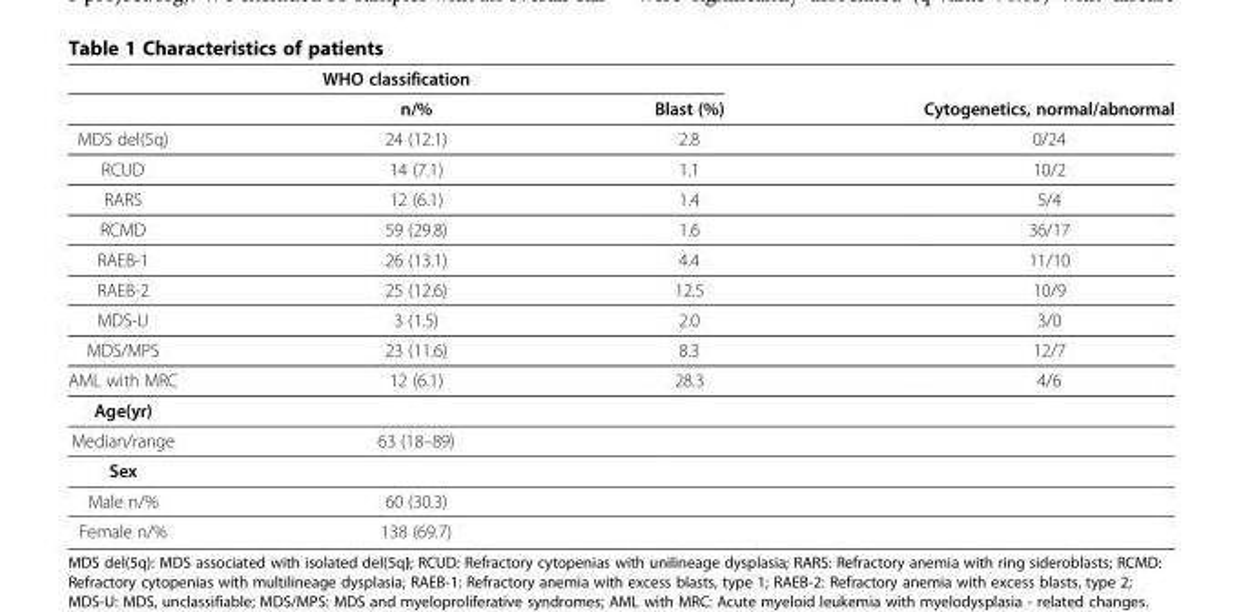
<table><thead><tr><td colspan="3">WHO classification</td><td rowspan="2">Cytogenetics, normal/abnormal</td></tr><tr><td></td><td>n/%</td><td>Blast (%)</td></tr></thead><tbody><tr><td>MDS del(5q)</td><td>24 (12.1)</td><td>2.8</td><td>0/24</td></tr><tr><td>RCUD</td><td>14 (7.1)</td><td>1.1</td><td>10/2</td></tr><tr><td>RARS</td><td>12 (6.1)</td><td>1.4</td><td>5/4</td></tr><tr><td>RCMD</td><td>59 (29.8)</td><td>1.6</td><td>36/17</td></tr><tr><td>RAEB-1</td><td>26 (13.1)</td><td>4.4</td><td>11/10</td></tr><tr><td>RAEB-2</td><td>25 (12.6)</td><td>12.5</td><td>10/9</td></tr><tr><td>MDS-U</td><td>3 (1.5)</td><td>2.0</td><td>3/0</td></tr><tr><td>MDS/MPS</td><td>23 (11.6)</td><td>8.3</td><td>12/7</td></tr><tr><td>AML with MRC</td><td>12 (6.1)</td><td>28.3</td><td>4/6</td></tr><tr><td colspan="4">Age(yr)</td></tr><tr><td>Median/range</td><td>63 (18–89)</td><td></td><td></td></tr><tr><td colspan="4">Sex</td></tr><tr><td>Male n/%</td><td>60 (30.3)</td><td></td><td></td></tr><tr><td>Female n/%</td><td>138 (69.7)</td><td></td><td></td></tr></tbody></table>